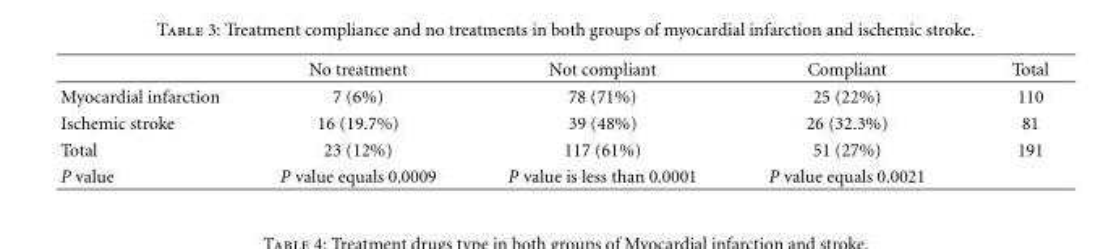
<table><thead><tr><td></td><td>No treatment</td><td>Not compliant</td><td>Compliant</td><td>Total</td></tr></thead><tbody><tr><td>Myocardial infarction</td><td>7 (6%)</td><td>78 (71%)</td><td>25 (22%)</td><td>110</td></tr><tr><td>Ischemic stroke</td><td>16 (19.7%)</td><td>39 (48%)</td><td>26 (32.3%)</td><td>81</td></tr><tr><td>Total</td><td>23 (12%)</td><td>117 (61%)</td><td>51 (27%)</td><td>191</td></tr><tr><td>P value</td><td>P value equals 0.0009</td><td>P value is less than 0.0001</td><td>P value equals 0.0021</td><td></td></tr></tbody></table>